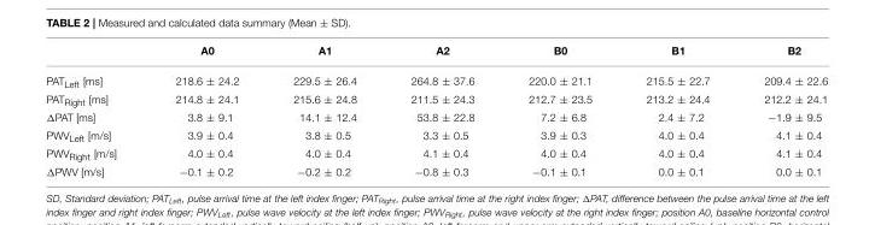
<table><thead><tr><td></td><td>A0</td><td>A1</td><td>A2</td><td>B0</td><td>B1</td><td>B2</td></tr></thead><tbody><tr><td>PAT<sub>Left</sub> [ms]</td><td>218.6 ± 24.2</td><td>229.5 ± 26.4</td><td>264.8 ± 37.6</td><td>220.0 ± 21.1</td><td>215.5 ± 22.7</td><td>209.4 ± 22.6</td></tr><tr><td>PAT<sub>Right</sub> [ms]</td><td>214.8 ± 24.1</td><td>215.6 ± 24.8</td><td>211.5 ± 24.3</td><td>212.7 ± 23.5</td><td>213.2 ± 24.4</td><td>212.2 ± 24.1</td></tr><tr><td>ΔPAT [ms]</td><td>3.8 ± 9.1</td><td>14.1 ± 12.4</td><td>53.8 ± 22.8</td><td>7.2 ± 6.8</td><td>2.4 ± 7.2</td><td>−1.9 ± 9.5</td></tr><tr><td>PWV<sub>Left</sub> [m/s]</td><td>3.9 ± 0.4</td><td>3.8 ± 0.5</td><td>3.3 ± 0.5</td><td>3.9 ± 0.3</td><td>4.0 ± 0.4</td><td>4.1 ± 0.4</td></tr><tr><td>PWV<sub>Right</sub> [m/s]</td><td>4.0 ± 0.4</td><td>4.0 ± 0.4</td><td>4.1 ± 0.4</td><td>4.0 ± 0.4</td><td>4.0 ± 0.4</td><td>4.1 ± 0.4</td></tr><tr><td>ΔPWV [m/s]</td><td>−0.1 ± 0.2</td><td>−0.2 ± 0.2</td><td>−0.8 ± 0.3</td><td>−0.1 ± 0.1</td><td>0.0 ± 0.1</td><td>0.0 ± 0.1</td></tr></tbody></table>